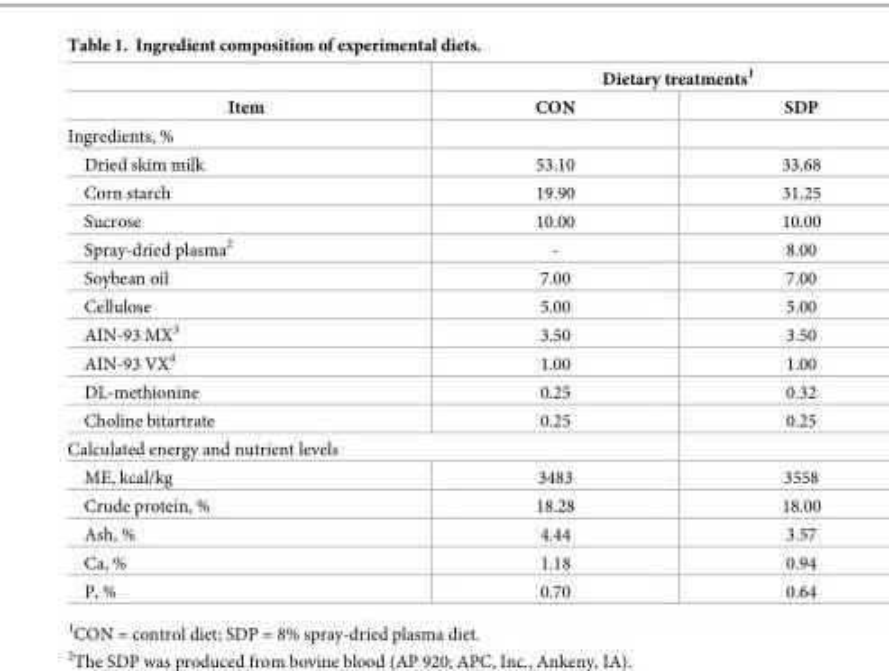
<table><thead><tr><td rowspan="2">Item</td><td colspan="2">Dietary treatments<sup>1</sup></td></tr><tr><td>CON</td><td>SDP</td></tr></thead><tbody><tr><td colspan="3">Ingredients, %</td></tr><tr><td>Dried skim milk</td><td>53.10</td><td>33.68</td></tr><tr><td>Corn starch</td><td>19.90</td><td>31.25</td></tr><tr><td>Sucrose</td><td>10.00</td><td>10.00</td></tr><tr><td>Spray-dried plasma<sup>2</sup></td><td>-</td><td>8.00</td></tr><tr><td>Soybean oil</td><td>7.00</td><td>7.00</td></tr><tr><td>Cellulose</td><td>5.00</td><td>5.00</td></tr><tr><td>AIN-93 MX<sup>3</sup></td><td>3.50</td><td>3.50</td></tr><tr><td>AIN-93 VX<sup>4</sup></td><td>1.00</td><td>1.00</td></tr><tr><td>DL-methionine</td><td>0.25</td><td>0.32</td></tr><tr><td>Choline bitartrate</td><td>0.25</td><td>0.25</td></tr><tr><td colspan="3">Calculated energy and nutrient levels</td></tr><tr><td>ME, kcal/kg</td><td>3483</td><td>3558</td></tr><tr><td>Crude protein, %</td><td>18.28</td><td>18.00</td></tr><tr><td>Ash, %</td><td>4.44</td><td>3.57</td></tr><tr><td>Ca, %</td><td>1.18</td><td>0.94</td></tr><tr><td>P, %</td><td>0.70</td><td>0.64</td></tr></tbody></table>